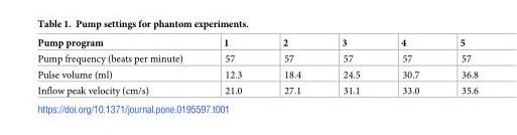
<table><thead><tr><td>Pump program</td><td>1</td><td>2</td><td>3</td><td>4</td><td>5</td></tr></thead><tbody><tr><td>Pump frequency (beats per minute)</td><td>57</td><td>57</td><td>57</td><td>57</td><td>57</td></tr><tr><td>Pulse volume (ml)</td><td>12.3</td><td>18.4</td><td>24.5</td><td>30.7</td><td>36.8</td></tr><tr><td>Inflow peak velocity (cm/s)</td><td>21.0</td><td>27.1</td><td>31.1</td><td>33.0</td><td>35.6</td></tr></tbody></table>